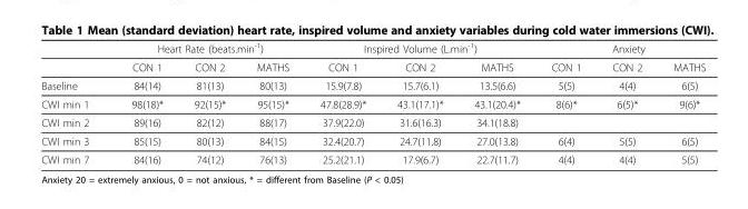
<table><thead><tr><td rowspan="2"></td><td colspan="3">Heart Rate (beats.min<sup>-1</sup>)</td><td colspan="3">Inspired Volume (L.min<sup>-1</sup>)</td><td colspan="3">Anxiety</td></tr><tr><td>CON 1</td><td>CON 2</td><td>MATHS</td><td>CON 1</td><td>CON 2</td><td>MATHS</td><td>CON 1</td><td>CON 2</td><td>MATHS</td></tr></thead><tbody><tr><td>Baseline</td><td>84(14)</td><td>81(13)</td><td>80(13)</td><td>15.9(7.8)</td><td>15.7(6.1)</td><td>13.5(6.6)</td><td>5(5)</td><td>4(4)</td><td>6(5)</td></tr><tr><td>CWI min 1</td><td>98(18)*</td><td>92(15)*</td><td>95(15)*</td><td>47.8(28.9)*</td><td>43.1(17.1)*</td><td>43.1(20.4)*</td><td>8(6)*</td><td>6(5)*</td><td>9(6)*</td></tr><tr><td>CWI min 2</td><td>89(16)</td><td>82(12)</td><td>88(17)</td><td>37.9(22.0)</td><td>31.6(16.3)</td><td>34.1(18.8)</td><td></td><td></td><td></td></tr><tr><td>CWI min 3</td><td>85(15)</td><td>80(13)</td><td>84(15)</td><td>32.4(20.7)</td><td>24.7(11.8)</td><td>27.0(13.8)</td><td>6(4)</td><td>5(5)</td><td>6(5)</td></tr><tr><td>CWI min 7</td><td>84(16)</td><td>74(12)</td><td>76(13)</td><td>25.2(21.1)</td><td>17.9(6.7)</td><td>22.7(11.7)</td><td>4(4)</td><td>4(4)</td><td>5(5)</td></tr></tbody></table>